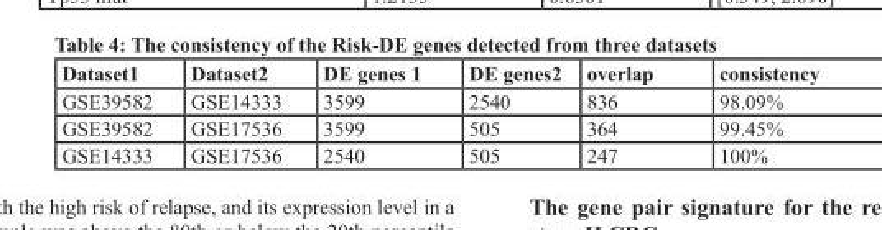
<table><thead><tr><td>Dataset1</td><td>Dataset2</td><td>DE genes 1</td><td>DE genes2</td><td>overlap</td><td>consistency</td></tr></thead><tbody><tr><td>GSE39582</td><td>GSE14333</td><td>3599</td><td>2540</td><td>836</td><td>98.09%</td></tr><tr><td>GSE39582</td><td>GSE17536</td><td>3599</td><td>505</td><td>364</td><td>99.45%</td></tr><tr><td>GSE14333</td><td>GSE17536</td><td>2540</td><td>505</td><td>247</td><td>100%</td></tr></tbody></table>